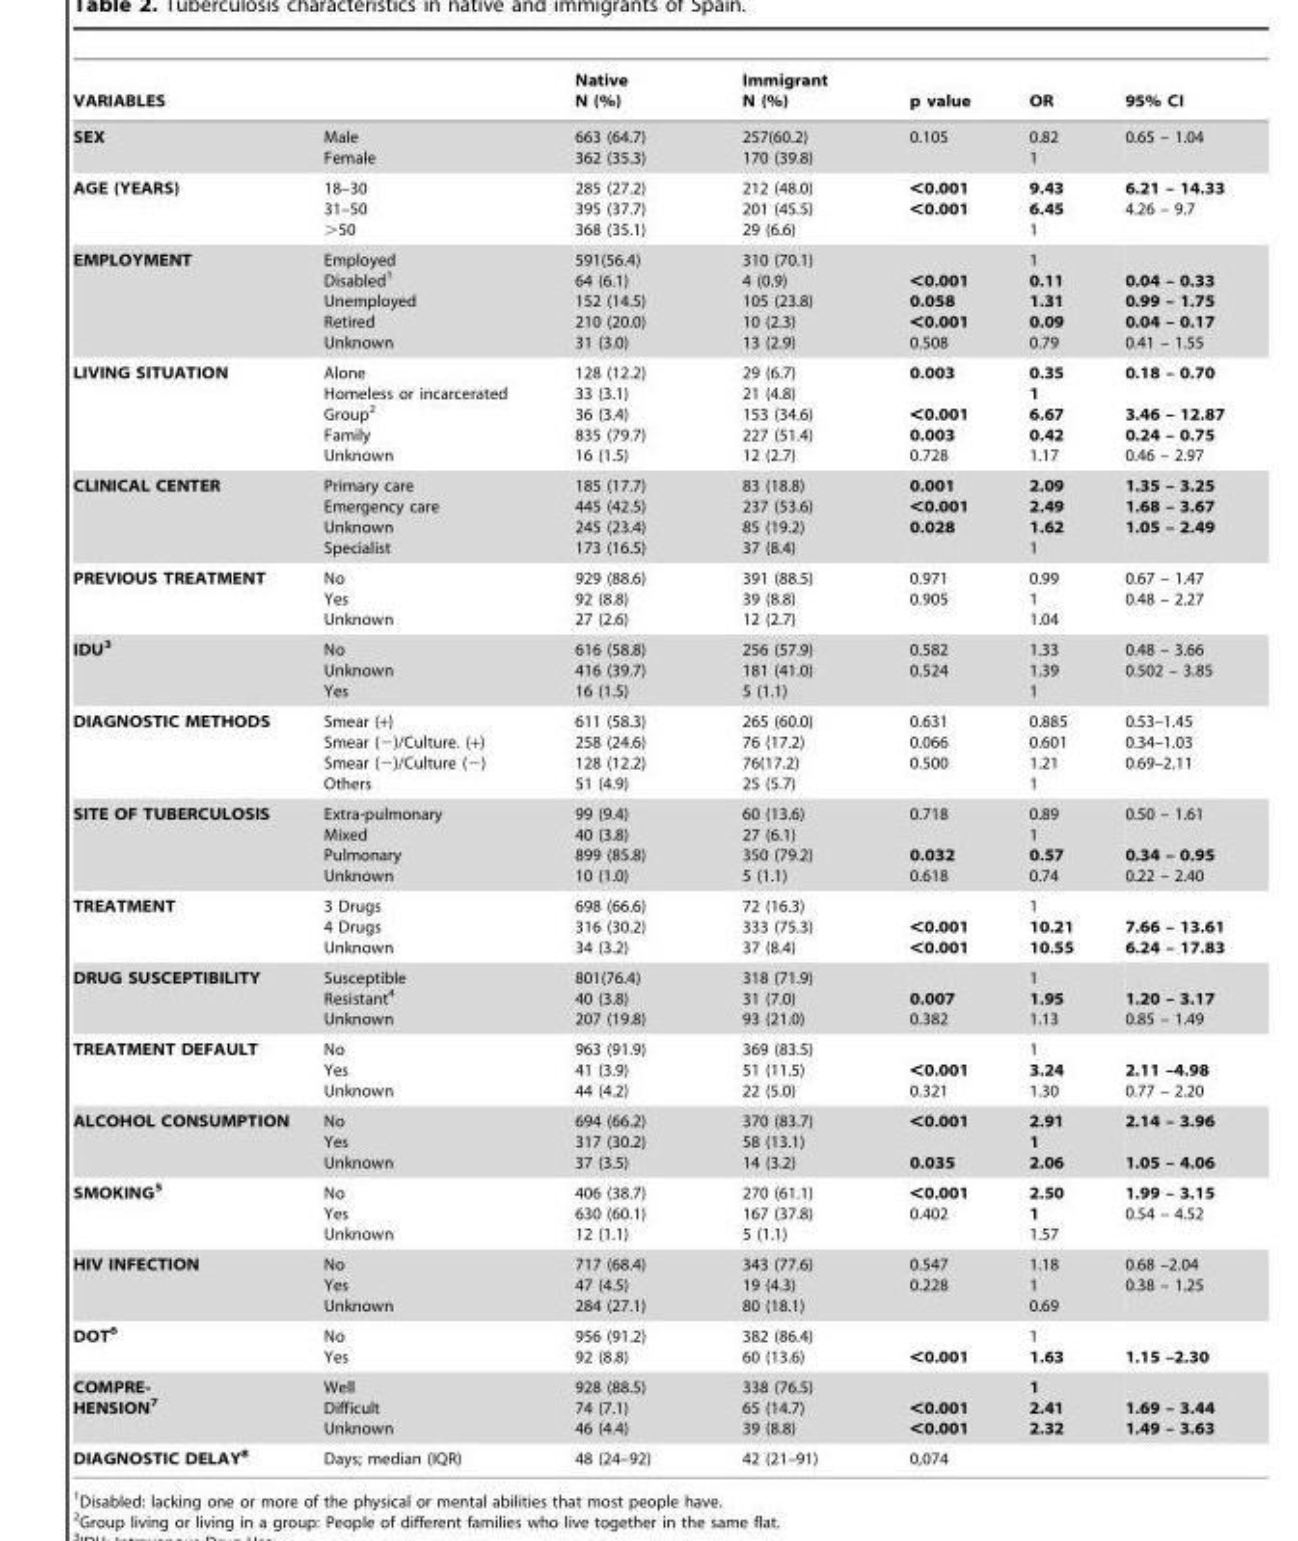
<table><thead><tr><td>VARIABLES</td><td></td><td>Native N (%)</td><td>Immigrant N (%)</td><td>p value</td><td>OR</td><td>95% CI</td></tr></thead><tbody><tr><td>SEX</td><td>Male Female</td><td>663 (64.7) 362 (35.3)</td><td>257(60.2) 170 (39.8)</td><td>0.105</td><td>0.82 1</td><td>0.65 – 1.04</td></tr><tr><td>AGE (YEARS)</td><td>18–30 31–50 &gt;50</td><td>285 (27.2) 395 (37.7) 368 (35.1)</td><td>212 (48.0) 201 (45.5) 29 (6.6)</td><td>&lt;0.001 &lt;0.001</td><td>9.43 6.45 1</td><td>6.21 – 14.33 4.26 – 9.7</td></tr><tr><td>EMPLOYMENT</td><td>Employed Disabled<sup>1</sup> Unemployed Retired Unknown</td><td>591(56.4) 64 (6.1) 152 (14.5) 210 (20.0) 31 (3.0)</td><td>310 (70.1) 4 (0.9) 105 (23.8) 10 (2.3) 13 (2.9)</td><td>&lt;0.001 0.058 &lt;0.001 0.508</td><td>1 0.11 1.31 0.09 0.79</td><td>0.04 – 0.33 0.99 – 1.75 0.04 – 0.17 0.41 – 1.55</td></tr><tr><td>LIVING SITUATION</td><td>Alone Homeless or incarcerated Group<sup>2</sup> Family Unknown</td><td>128 (12.2) 33 (3.1) 36 (3.4) 835 (79.7) 16 (1.5)</td><td>29 (6.7) 21 (4.8) 153 (34.6) 227 (51.4) 12 (2.7)</td><td>0.003 &lt;0.001 0.003 0.728</td><td>0.35 1 6.67 0.42 1.17</td><td>0.18 – 0.70 3.46 – 12.87 0.24 – 0.75 0.46 – 2.97</td></tr><tr><td>CLINICAL CENTER</td><td>Primary care Emergency care Unknown Specialist</td><td>185 (17.7) 445 (42.5) 245 (23.4) 173 (16.5)</td><td>83 (18.8) 237 (53.6) 85 (19.2) 37 (8.4)</td><td>0.001 &lt;0.001 0.028</td><td>2.09 2.49 1.62 1</td><td>1.35 – 3.25 1.68 – 3.67 1.05 – 2.49</td></tr><tr><td>PREVIOUS TREATMENT</td><td>No Yes Unknown</td><td>929 (88.6) 92 (8.8) 27 (2.6)</td><td>391 (88.5) 39 (8.8) 12 (2.7)</td><td>0.971 0.905</td><td>0.99 1 1.04</td><td>0.67 – 1.47 0.48 – 2.27</td></tr><tr><td>IDU3</td><td>No Unknown Yes</td><td>616 (58.8) 416 (39.7) 16 (1.5)</td><td>256 (57.9) 181 (41.0) 5 (1.1)</td><td>0.582 0.524</td><td>1.33 1.39 1</td><td>0.48 – 3.66 0.502 – 3.85</td></tr><tr><td>DIAGNOSTIC METHODS</td><td>Smear (+) Smear (−)/Culture. (+) Smear (−)/Culture (−) Others</td><td>611 (58.3) 258 (24.6) 128 (12.2) 51 (4.9)</td><td>265 (60.0) 76 (17.2) 76(17.2) 25 (5.7)</td><td>0.631 0.066 0.500</td><td>0.885 0.601 1.21 1</td><td>0.53–1.45 0.34–1.03 0.69–2.11</td></tr><tr><td>SITE OF TUBERCULOSIS</td><td>Extra-pulmonary Mixed Pulmonary Unknown</td><td>99 (9.4) 40 (3.8) 899 (85.8) 10 (1.0)</td><td>60 (13.6) 27 (6.1) 350 (79.2) 5 (1.1)</td><td>0.718 0.032 0.618</td><td>0.89 1 0.57 0.74</td><td>0.50 – 1.61 0.34 – 0.95 0.22 – 2.40</td></tr><tr><td>TREATMENT</td><td>3 Drugs 4 Drugs Unknown</td><td>698 (66.6) 316 (30.2) 34 (3.2)</td><td>72 (16.3) 333 (75.3) 37 (8.4)</td><td>&lt;0.001 &lt;0.001</td><td>1 10.21 10.55</td><td>7.66 – 13.61 6.24 – 17.83</td></tr><tr><td>DRUG SUSCEPTIBILITY</td><td>Susceptible Resistant<sup>4</sup> Unknown</td><td>801(76.4) 40 (3.8) 207 (19.8)</td><td>318 (71.9) 31 (7.0) 93 (21.0)</td><td>0.007 0.382</td><td>1 1.95 1.13</td><td>1.20 – 3.17 0.85 – 1.49</td></tr><tr><td>TREATMENT DEFAULT</td><td>No Yes Unknown</td><td>963 (91.9) 41 (3.9) 44 (4.2)</td><td>369 (83.5) 51 (11.5) 22 (5.0)</td><td>&lt;0.001 0.321</td><td>1 3.24 1.30</td><td>2.11 –4.98 0.77 – 2.20</td></tr><tr><td>ALCOHOL CONSUMPTION</td><td>No Yes Unknown</td><td>694 (66.2) 317 (30.2) 37 (3.5)</td><td>370 (83.7) 58 (13.1) 14 (3.2)</td><td>&lt;0.001 0.035</td><td>2.91 1 2.06</td><td>2.14 – 3.96 1.05 – 4.06</td></tr><tr><td>SMOKING5</td><td>No Yes Unknown</td><td>406 (38.7) 630 (60.1) 12 (1.1)</td><td>270 (61.1) 167 (37.8) 5 (1.1)</td><td>&lt;0.001 0.402</td><td>2.50 1 1.57</td><td>1.99 – 3.15 0.54 – 4.52</td></tr><tr><td>HIV INFECTION</td><td>No Yes Unknown</td><td>717 (68.4) 47 (4.5) 284 (27.1)</td><td>343 (77.6) 19 (4.3) 80 (18.1)</td><td>0.547 0.228</td><td>1.18 1 0.69</td><td>0.68 –2.04 0.38 – 1.25</td></tr><tr><td>DOT6</td><td>No Yes</td><td>956 (91.2) 92 (8.8)</td><td>382 (86.4) 60 (13.6)</td><td>&lt;0.001</td><td>1 1.63</td><td>1.15 –2.30</td></tr><tr><td>COMPRE- HENSION7</td><td>Well Difficult Unknown</td><td>928 (88.5) 74 (7.1) 46 (4.4)</td><td>338 (76.5) 65 (14.7) 39 (8.8)</td><td>&lt;0.001 &lt;0.001</td><td>1 2.41 2.32</td><td>1.69 – 3.44 1.49 – 3.63</td></tr><tr><td>DIAGNOSTIC DELAY8</td><td>Days; median (IQR)</td><td>48 (24–92)</td><td>42 (21–91)</td><td>0,074</td><td></td><td></td></tr></tbody></table>